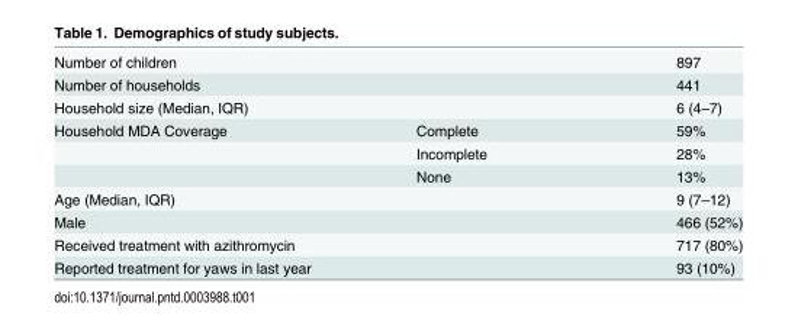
<table><tbody><tr><td colspan="2">Number of children</td><td>897</td></tr><tr><td colspan="2">Number of households</td><td>441</td></tr><tr><td colspan="2">Household size (Median, IQR)</td><td>6 (4–7)</td></tr><tr><td rowspan="3">Household MDA Coverage</td><td>Complete</td><td>59%</td></tr><tr><td>Incomplete</td><td>28%</td></tr><tr><td>None</td><td>13%</td></tr><tr><td colspan="2">Age (Median, IQR)</td><td>9 (7–12)</td></tr><tr><td colspan="2">Male</td><td>466 (52%)</td></tr><tr><td colspan="2">Received treatment with azithromycin</td><td>717 (80%)</td></tr><tr><td colspan="2">Reported treatment for yaws in last year</td><td>93 (10%)</td></tr></tbody></table>